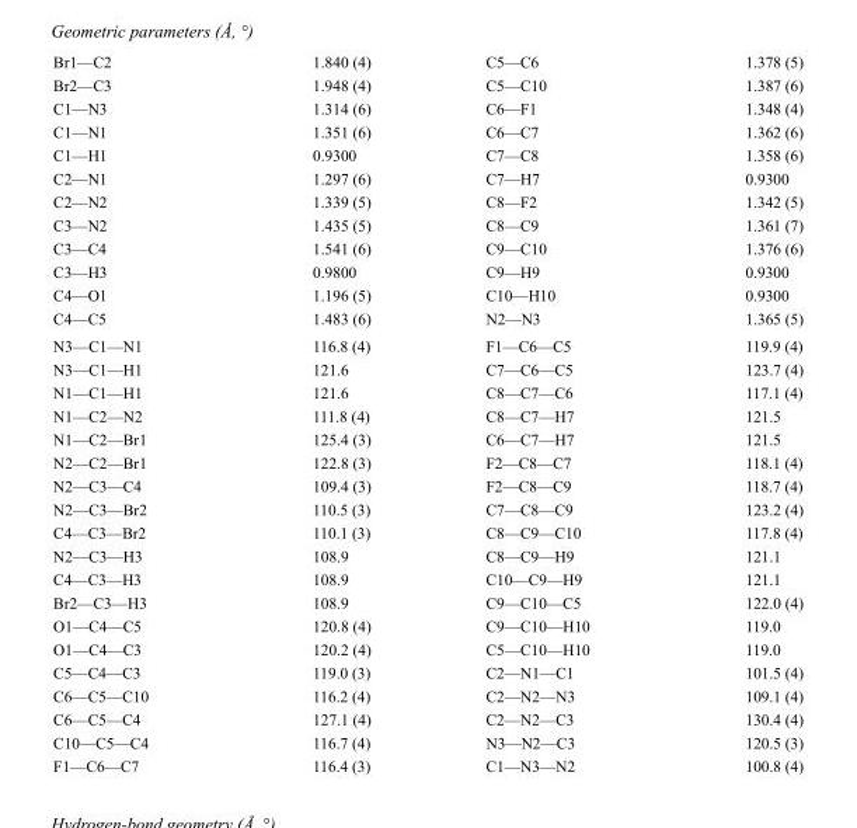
<table><tbody><tr><td>Br1—C2</td><td>1.840 (4)</td><td>C5—C6</td><td>1.378 (5)</td></tr><tr><td>Br2—C3</td><td>1.948 (4)</td><td>C5—C10</td><td>1.387 (6)</td></tr><tr><td>C1—N3</td><td>1.314 (6)</td><td>C6—F1</td><td>1.348 (4)</td></tr><tr><td>C1—N1</td><td>1.351 (6)</td><td>C6—C7</td><td>1.362 (6)</td></tr><tr><td>C1—H1</td><td>0.9300</td><td>C7—C8</td><td>1.358 (6)</td></tr><tr><td>C2—N1</td><td>1.297 (6)</td><td>C7—H7</td><td>0.9300</td></tr><tr><td>C2—N2</td><td>1.339 (5)</td><td>C8—F2</td><td>1.342 (5)</td></tr><tr><td>C3—N2</td><td>1.435 (5)</td><td>C8—C9</td><td>1.361 (7)</td></tr><tr><td>C3—C4</td><td>1.541 (6)</td><td>C9—C10</td><td>1.376 (6)</td></tr><tr><td>C3—H3</td><td>0.9800</td><td>C9—H9</td><td>0.9300</td></tr><tr><td>C4—O1</td><td>1.196 (5)</td><td>C10—H10</td><td>0.9300</td></tr><tr><td>C4—C5</td><td>1.483 (6)</td><td>N2—N3</td><td>1.365 (5)</td></tr><tr><td>N3—C1—N1</td><td>116.8 (4)</td><td>F1—C6—C5</td><td>119.9 (4)</td></tr><tr><td>N3—C1—H1</td><td>121.6</td><td>C7—C6—C5</td><td>123.7 (4)</td></tr><tr><td>N1—C1—H1</td><td>121.6</td><td>C8—C7—C6</td><td>117.1 (4)</td></tr><tr><td>N1—C2—N2</td><td>111.8 (4)</td><td>C8—C7—H7</td><td>121.5</td></tr><tr><td>N1—C2—Br1</td><td>125.4 (3)</td><td>C6—C7—H7</td><td>121.5</td></tr><tr><td>N2—C2—Br1</td><td>122.8 (3)</td><td>F2—C8—C7</td><td>118.1 (4)</td></tr><tr><td>N2—C3—C4</td><td>109.4 (3)</td><td>F2—C8—C9</td><td>118.7 (4)</td></tr><tr><td>N2—C3—Br2</td><td>110.5 (3)</td><td>C7—C8—C9</td><td>123.2 (4)</td></tr><tr><td>C4—C3—Br2</td><td>110.1 (3)</td><td>C8—C9—C10</td><td>117.8 (4)</td></tr><tr><td>N2—C3—H3</td><td>108.9</td><td>C8—C9—H9</td><td>121.1</td></tr><tr><td>C4—C3—H3</td><td>108.9</td><td>C10—C9—H9</td><td>121.1</td></tr><tr><td>Br2—C3—H3</td><td>108.9</td><td>C9—C10—C5</td><td>122.0 (4)</td></tr><tr><td>O1—C4—C5</td><td>120.8 (4)</td><td>C9—C10—H10</td><td>119.0</td></tr><tr><td>O1—C4—C3</td><td>120.2 (4)</td><td>C5—C10—H10</td><td>119.0</td></tr><tr><td>C5—C4—C3</td><td>119.0 (3)</td><td>C2—N1—C1</td><td>101.5 (4)</td></tr><tr><td>C6—C5—C10</td><td>116.2 (4)</td><td>C2—N2—N3</td><td>109.1 (4)</td></tr><tr><td>C6—C5—C4</td><td>127.1 (4)</td><td>C2—N2—C3</td><td>130.4 (4)</td></tr><tr><td>C10—C5—C4</td><td>116.7 (4)</td><td>N3—N2—C3</td><td>120.5 (3)</td></tr><tr><td>F1—C6—C7</td><td>116.4 (3)</td><td>C1—N3—N2</td><td>100.8 (4)</td></tr></tbody></table>